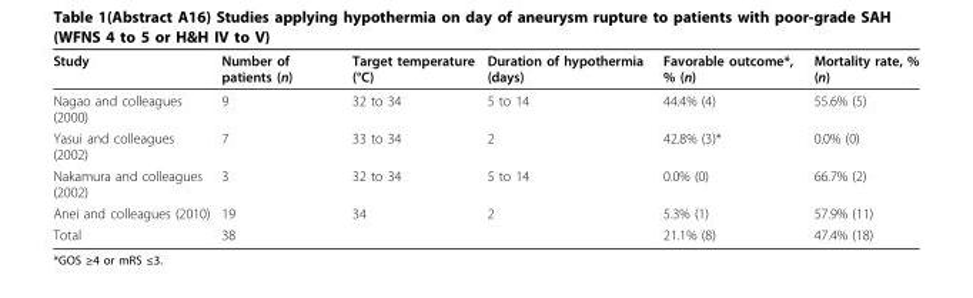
<table><thead><tr><td>Study</td><td>Number of patients (n)</td><td>Target temperature (°C)</td><td>Duration of hypothermia (days)</td><td>Favorable outcome*, % (n)</td><td>Mortality rate, % (n)</td></tr></thead><tbody><tr><td>Nagao and colleagues (2000)</td><td>9</td><td>32 to 34</td><td>5 to 14</td><td>44.4% (4)</td><td>55.6% (5)</td></tr><tr><td>Yasui and colleagues (2002)</td><td>7</td><td>33 to 34</td><td>2</td><td>42.8% (3)*</td><td>0.0% (0)</td></tr><tr><td>Nakamura and colleagues (2002)</td><td>3</td><td>32 to 34</td><td>5 to 14</td><td>0.0% (0)</td><td>66.7% (2)</td></tr><tr><td>Anei and colleagues (2010)</td><td>19</td><td>34</td><td>2</td><td>5.3% (1)</td><td>57.9% (11)</td></tr><tr><td>Total</td><td>38</td><td></td><td></td><td>21.1% (8)</td><td>47.4% (18)</td></tr></tbody></table>